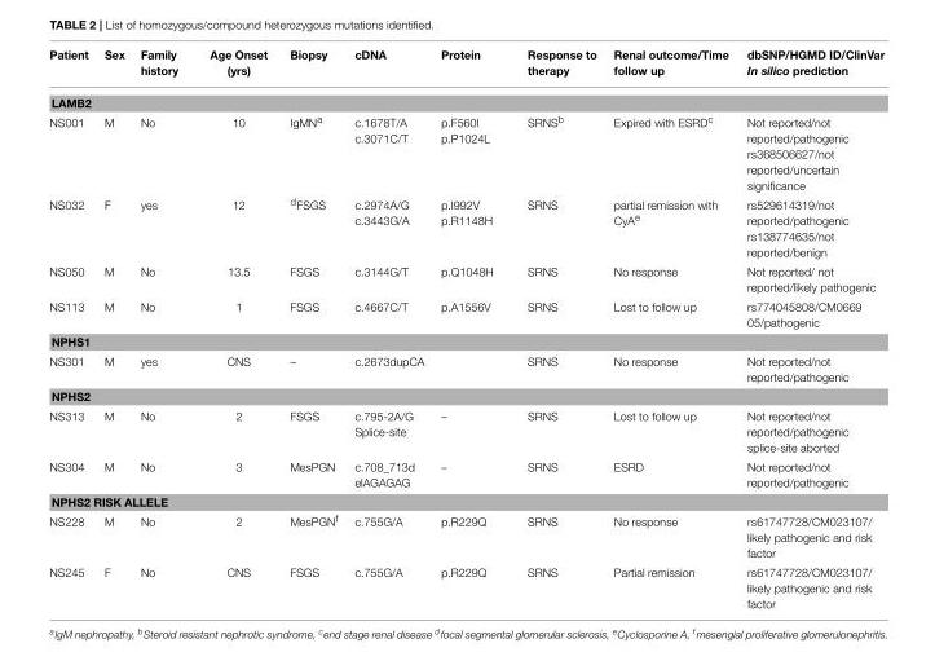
<table><thead><tr><td>Patient</td><td>Sex</td><td>Family history</td><td>Age Onset (yrs)</td><td>Biopsy</td><td>cDNA</td><td>Protein</td><td>Response to therapy</td><td>Renal outcome/Time follow up</td><td>dbSNP/HGMD ID/ClinVar In silico prediction</td></tr></thead><tbody><tr><td colspan="10">LAMB2</td></tr><tr><td>NS001</td><td>M</td><td>No</td><td>10</td><td>IgMN<sup>a</sup></td><td>c.1678T/A c.3071C/T</td><td>p.F560I p.P1024L</td><td>SRNS<sup>b</sup></td><td>Expired with ESRD<sup>c</sup></td><td>Not reported/not reported/pathogenic rs368506627/not reported/uncertain significance</td></tr><tr><td>NS032</td><td>F</td><td>yes</td><td>12</td><td><sup>d</sup>FSGS</td><td>c.2974A/G c.3443G/A</td><td>p.I992V p.R1148H</td><td>SRNS</td><td>partial remission with CyA<sup>e</sup></td><td>rs529614319/not reported/pathogenic rs138774635/not reported/benign</td></tr><tr><td>NS050</td><td>M</td><td>No</td><td>13.5</td><td>FSGS</td><td>c.3144G/T</td><td>p.Q1048H</td><td>SRNS</td><td>No response</td><td>Not reported/ not reported/likely pathogenic</td></tr><tr><td>NS113</td><td>M</td><td>No</td><td>1</td><td>FSGS</td><td>c.4667C/T</td><td>p.A1556V</td><td>SRNS</td><td>Lost to follow up</td><td>rs774045808/CM0669 05/pathogenic</td></tr><tr><td colspan="10">NPHS1</td></tr><tr><td>NS301</td><td>M</td><td>yes</td><td>CNS</td><td>–</td><td>c.2673dupCA</td><td></td><td>SRNS</td><td>No response</td><td>Not reported/not reported/pathogenic</td></tr><tr><td colspan="10">NPHS2</td></tr><tr><td>NS313</td><td>M</td><td>No</td><td>2</td><td>FSGS</td><td>c.795-2A/G Splice-site</td><td>–</td><td>SRNS</td><td>Lost to follow up</td><td>Not reported/not reported/pathogenic splice-site aborted</td></tr><tr><td>NS304</td><td>M</td><td>No</td><td>3</td><td>MesPGN</td><td>c.708_713d elAGAGAG</td><td>–</td><td>SRNS</td><td>ESRD</td><td>Not reported/not reported/pathogenic</td></tr><tr><td colspan="10">NPHS2 RISK ALLELE</td></tr><tr><td>NS228</td><td>M</td><td>No</td><td>2</td><td>MesPGN<sup>f</sup></td><td>c.755G/A</td><td>p.R229Q</td><td>SRNS</td><td>No response</td><td>rs61747728/CM023107/ likely pathogenic and risk factor</td></tr><tr><td>NS245</td><td>F</td><td>No</td><td>CNS</td><td>FSGS</td><td>c.755G/A</td><td>p.R229Q</td><td>SRNS</td><td>Partial remission</td><td>rs61747728/CM023107/ likely pathogenic and risk factor</td></tr></tbody></table>